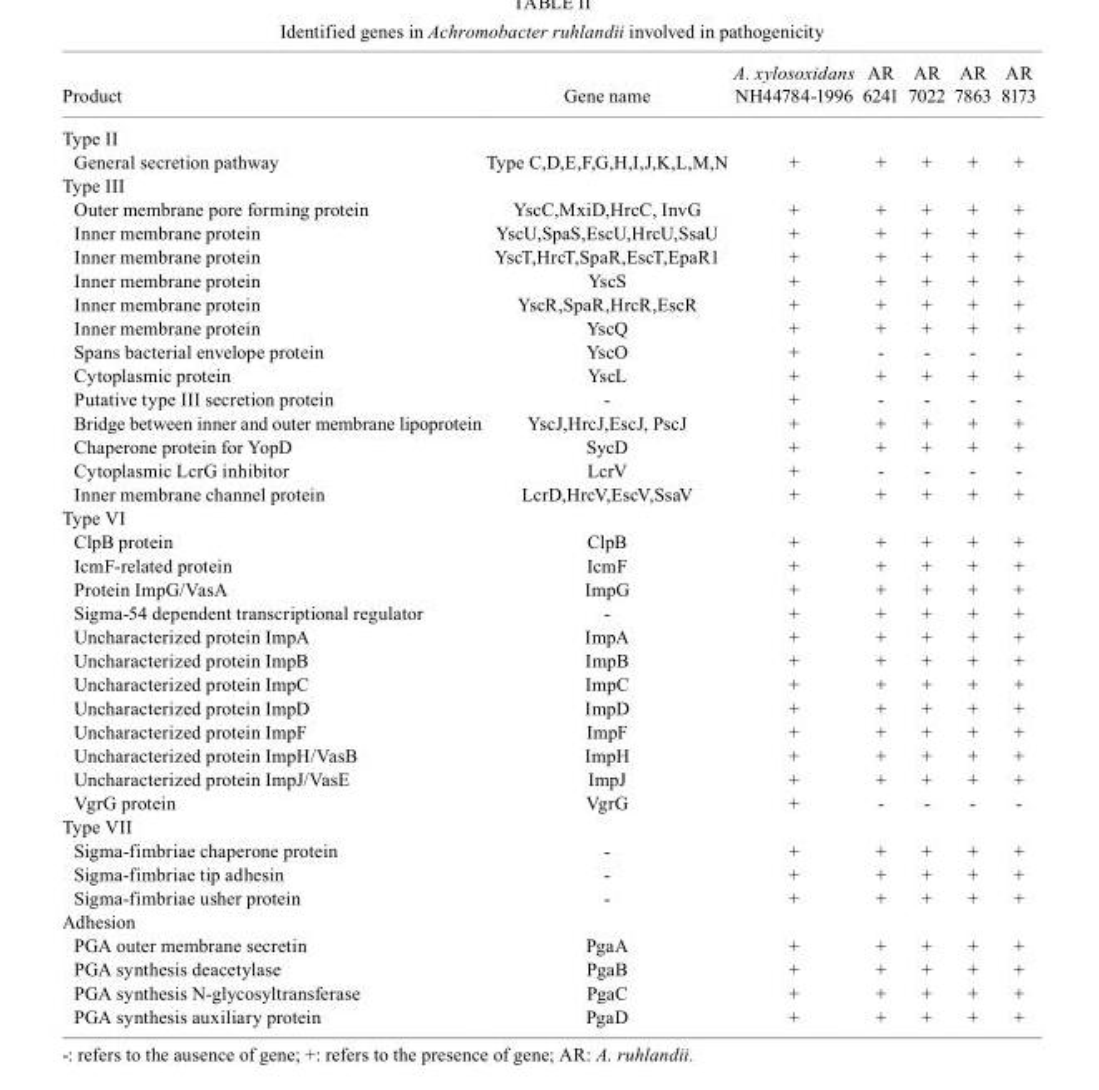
<table><thead><tr><td>Product</td><td>Gene name</td><td>A. xylosoxidans NH44784-1996</td><td>AR 6241</td><td>AR 7022</td><td>AR 7863</td><td>AR 8173</td></tr></thead><tbody><tr><td colspan="7">Type II</td></tr><tr><td>General secretion pathway</td><td>Type C,D,E,F,G,H,I,J,K,L,M,N</td><td>+</td><td>+</td><td>+</td><td>+</td><td>+</td></tr><tr><td colspan="7">Type III</td></tr><tr><td>Outer membrane pore forming protein</td><td>YscC,MxiD,HrcC, InvG</td><td>+</td><td>+</td><td>+</td><td>+</td><td>+</td></tr><tr><td>Inner membrane protein</td><td>YscU,SpaS,EscU,HrcU,SsaU</td><td>+</td><td>+</td><td>+</td><td>+</td><td>+</td></tr><tr><td>Inner membrane protein</td><td>YscT,HrcT,SpaR,EscT,EpaR1</td><td>+</td><td>+</td><td>+</td><td>+</td><td>+</td></tr><tr><td>Inner membrane protein</td><td>YscS</td><td>+</td><td>+</td><td>+</td><td>+</td><td>+</td></tr><tr><td>Inner membrane protein</td><td>YscR,SpaR,HrcR,EscR</td><td>+</td><td>+</td><td>+</td><td>+</td><td>+</td></tr><tr><td>Inner membrane protein</td><td>YscQ</td><td>+</td><td>+</td><td>+</td><td>+</td><td>+</td></tr><tr><td>Spans bacterial envelope protein</td><td>YscO</td><td>+</td><td>-</td><td>-</td><td>-</td><td>-</td></tr><tr><td>Cytoplasmic protein</td><td>YscL</td><td>+</td><td>+</td><td>+</td><td>+</td><td>+</td></tr><tr><td>Putative type III secretion protein</td><td>-</td><td>+</td><td>-</td><td>-</td><td>-</td><td>-</td></tr><tr><td>Bridge between inner and outer membrane lipoprotein</td><td>YscJ,HrcJ,EscJ, PscJ</td><td>+</td><td>+</td><td>+</td><td>+</td><td>+</td></tr><tr><td>Chaperone protein for YopD</td><td>SycD</td><td>+</td><td>+</td><td>+</td><td>+</td><td>+</td></tr><tr><td>Cytoplasmic LcrG inhibitor</td><td>LcrV</td><td>+</td><td>-</td><td>-</td><td>-</td><td>-</td></tr><tr><td>Inner membrane channel protein</td><td>LcrD,HrcV,EscV,SsaV</td><td>+</td><td>+</td><td>+</td><td>+</td><td>+</td></tr><tr><td colspan="7">Type VI</td></tr><tr><td>ClpB protein</td><td>ClpB</td><td>+</td><td>+</td><td>+</td><td>+</td><td>+</td></tr><tr><td>IcmF-related protein</td><td>IcmF</td><td>+</td><td>+</td><td>+</td><td>+</td><td>+</td></tr><tr><td>Protein ImpG/VasA</td><td>ImpG</td><td>+</td><td>+</td><td>+</td><td>+</td><td>+</td></tr><tr><td>Sigma-54 dependent transcriptional regulator</td><td>-</td><td>+</td><td>+</td><td>+</td><td>+</td><td>+</td></tr><tr><td>Uncharacterized protein ImpA</td><td>ImpA</td><td>+</td><td>+</td><td>+</td><td>+</td><td>+</td></tr><tr><td>Uncharacterized protein ImpB</td><td>ImpB</td><td>+</td><td>+</td><td>+</td><td>+</td><td>+</td></tr><tr><td>Uncharacterized protein ImpC</td><td>ImpC</td><td>+</td><td>+</td><td>+</td><td>+</td><td>+</td></tr><tr><td>Uncharacterized protein ImpD</td><td>ImpD</td><td>+</td><td>+</td><td>+</td><td>+</td><td>+</td></tr><tr><td>Uncharacterized protein ImpF</td><td>ImpF</td><td>+</td><td>+</td><td>+</td><td>+</td><td>+</td></tr><tr><td>Uncharacterized protein ImpH/VasB</td><td>ImpH</td><td>+</td><td>+</td><td>+</td><td>+</td><td>+</td></tr><tr><td>Uncharacterized protein ImpJ/VasE</td><td>ImpJ</td><td>+</td><td>+</td><td>+</td><td>+</td><td>+</td></tr><tr><td>VgrG protein</td><td>VgrG</td><td>+</td><td>-</td><td>-</td><td>-</td><td>-</td></tr><tr><td colspan="7">Type VII</td></tr><tr><td>Sigma-fimbriae chaperone protein</td><td>-</td><td>+</td><td>+</td><td>+</td><td>+</td><td>+</td></tr><tr><td>Sigma-fimbriae tip adhesin</td><td>-</td><td>+</td><td>+</td><td>+</td><td>+</td><td>+</td></tr><tr><td>Sigma-fimbriae usher protein</td><td>-</td><td>+</td><td>+</td><td>+</td><td>+</td><td>+</td></tr><tr><td colspan="7">Adhesion</td></tr><tr><td>PGA outer membrane secretin</td><td>PgaA</td><td>+</td><td>+</td><td>+</td><td>+</td><td>+</td></tr><tr><td>PGA synthesis deacetylase</td><td>PgaB</td><td>+</td><td>+</td><td>+</td><td>+</td><td>+</td></tr><tr><td>PGA synthesis N-glycosyltransferase</td><td>PgaC</td><td>+</td><td>+</td><td>+</td><td>+</td><td>+</td></tr><tr><td>PGA synthesis auxiliary protein</td><td>PgaD</td><td>+</td><td>+</td><td>+</td><td>+</td><td>+</td></tr></tbody></table>